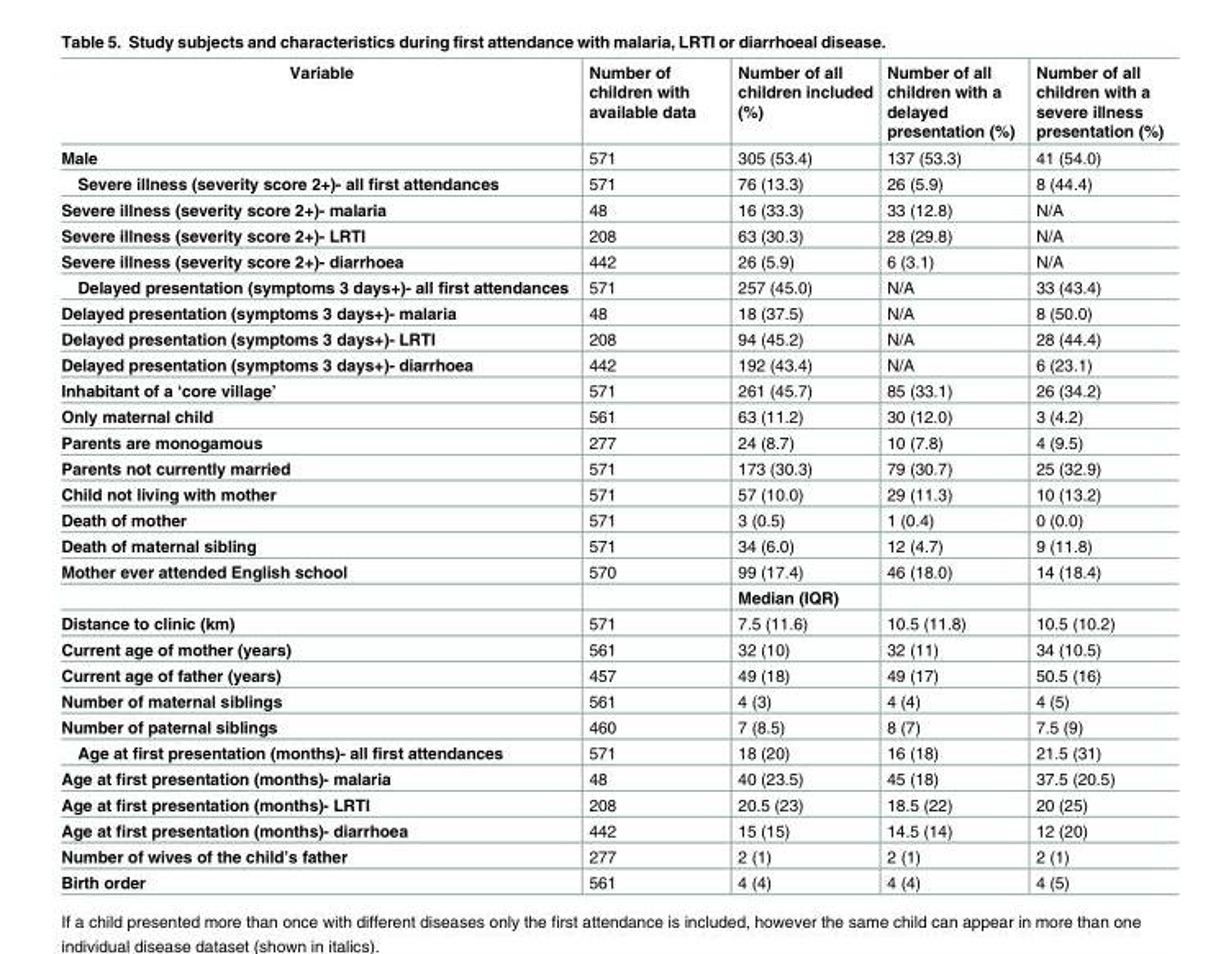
<table><thead><tr><td>Variable</td><td>Number of children with available data</td><td>Number of all children included (%)</td><td>Number of all children with a delayed presentation (%)</td><td>Number of all children with a severe illness presentation (%)</td></tr></thead><tbody><tr><td>Male</td><td>571</td><td>305 (53.4)</td><td>137 (53.3)</td><td>41 (54.0)</td></tr><tr><td>Severe illness (severity score 2+)- all first attendances</td><td>571</td><td>76 (13.3)</td><td>26 (5.9)</td><td>8 (44.4)</td></tr><tr><td>Severe illness (severity score 2+)- malaria</td><td>48</td><td>16 (33.3)</td><td>33 (12.8)</td><td>N/A</td></tr><tr><td>Severe illness (severity score 2+)- LRTI</td><td>208</td><td>63 (30.3)</td><td>28 (29.8)</td><td>N/A</td></tr><tr><td>Severe illness (severity score 2+)- diarrhoea</td><td>442</td><td>26 (5.9)</td><td>6 (3.1)</td><td>N/A</td></tr><tr><td>Delayed presentation (symptoms 3 days+)- all first attendances</td><td>571</td><td>257 (45.0)</td><td>N/A</td><td>33 (43.4)</td></tr><tr><td>Delayed presentation (symptoms 3 days+)- malaria</td><td>48</td><td>18 (37.5)</td><td>N/A</td><td>8 (50.0)</td></tr><tr><td>Delayed presentation (symptoms 3 days+)- LRTI</td><td>208</td><td>94 (45.2)</td><td>N/A</td><td>28 (44.4)</td></tr><tr><td>Delayed presentation (symptoms 3 days+)- diarrhoea</td><td>442</td><td>192 (43.4)</td><td>N/A</td><td>6 (23.1)</td></tr><tr><td>Inhabitant of a ‘core village’</td><td>571</td><td>261 (45.7)</td><td>85 (33.1)</td><td>26 (34.2)</td></tr><tr><td>Only maternal child</td><td>561</td><td>63 (11.2)</td><td>30 (12.0)</td><td>3 (4.2)</td></tr><tr><td>Parents are monogamous</td><td>277</td><td>24 (8.7)</td><td>10 (7.8)</td><td>4 (9.5)</td></tr><tr><td>Parents not currently married</td><td>571</td><td>173 (30.3)</td><td>79 (30.7)</td><td>25 (32.9)</td></tr><tr><td>Child not living with mother</td><td>571</td><td>57 (10.0)</td><td>29 (11.3)</td><td>10 (13.2)</td></tr><tr><td>Death of mother</td><td>571</td><td>3 (0.5)</td><td>1 (0.4)</td><td>0 (0.0)</td></tr><tr><td>Death of maternal sibling</td><td>571</td><td>34 (6.0)</td><td>12 (4.7)</td><td>9 (11.8)</td></tr><tr><td rowspan="2">Mother ever attended English school</td><td>570</td><td>99 (17.4)</td><td>46 (18.0)</td><td>14 (18.4)</td></tr><tr><td></td><td>Median (IQR)</td><td></td><td></td></tr><tr><td>Distance to clinic (km)</td><td>571</td><td>7.5 (11.6)</td><td>10.5 (11.8)</td><td>10.5 (10.2)</td></tr><tr><td>Current age of mother (years)</td><td>561</td><td>32 (10)</td><td>32 (11)</td><td>34 (10.5)</td></tr><tr><td>Current age of father (years)</td><td>457</td><td>49 (18)</td><td>49 (17)</td><td>50.5 (16)</td></tr><tr><td>Number of maternal siblings</td><td>561</td><td>4 (3)</td><td>4 (4)</td><td>4 (5)</td></tr><tr><td>Number of paternal siblings</td><td>460</td><td>7 (8.5)</td><td>8 (7)</td><td>7.5 (9)</td></tr><tr><td>Age at first presentation (months)- all first attendances</td><td>571</td><td>18 (20)</td><td>16 (18)</td><td>21.5 (31)</td></tr><tr><td>Age at first presentation (months)- malaria</td><td>48</td><td>40 (23.5)</td><td>45 (18)</td><td>37.5 (20.5)</td></tr><tr><td>Age at first presentation (months)- LRTI</td><td>208</td><td>20.5 (23)</td><td>18.5 (22)</td><td>20 (25)</td></tr><tr><td>Age at first presentation (months)- diarrhoea</td><td>442</td><td>15 (15)</td><td>14.5 (14)</td><td>12 (20)</td></tr><tr><td>Number of wives of the child’s father</td><td>277</td><td>2 (1)</td><td>2 (1)</td><td>2 (1)</td></tr><tr><td>Birth order</td><td>561</td><td>4 (4)</td><td>4 (4)</td><td>4 (5)</td></tr></tbody></table>